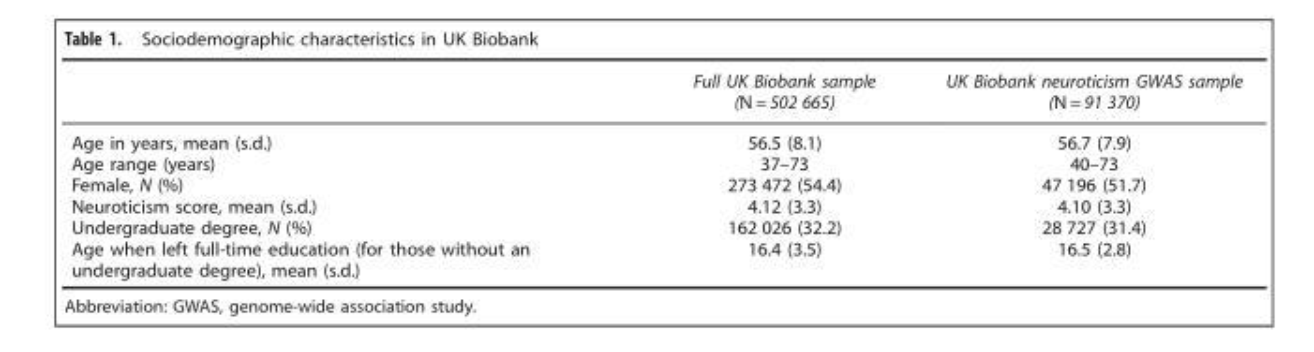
<table><thead><tr><td></td><td>Full UK Biobank sample (N = 502 665)</td><td>UK Biobank neuroticism GWAS sample (N = 91 370)</td></tr></thead><tbody><tr><td>Age in years, mean (s.d.)</td><td>56.5 (8.1)</td><td>56.7 (7.9)</td></tr><tr><td>Age range (years)</td><td>37–73</td><td>40–73</td></tr><tr><td>Female, N (%)</td><td>273 472 (54.4)</td><td>47 196 (51.7)</td></tr><tr><td>Neuroticism score, mean (s.d.)</td><td>4.12 (3.3)</td><td>4.10 (3.3)</td></tr><tr><td>Undergraduate degree, N (%)</td><td>162 026 (32.2)</td><td>28 727 (31.4)</td></tr><tr><td>Age when left full-time education (for those without an undergraduate degree), mean (s.d.)</td><td>16.4 (3.5)</td><td>16.5 (2.8)</td></tr></tbody></table>